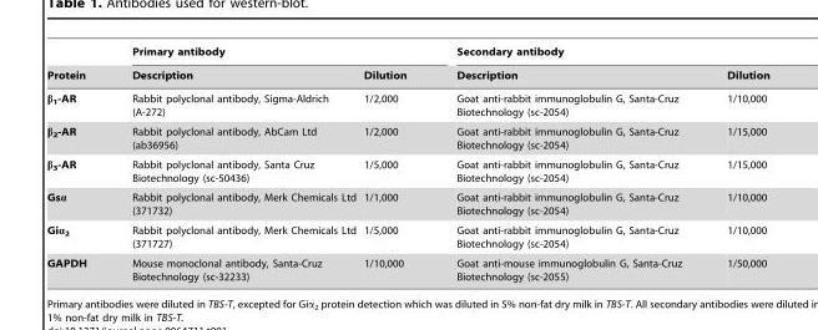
<table><thead><tr><td rowspan="2">Protein</td><td colspan="2">Primary antibody</td><td colspan="2">Secondary antibody</td></tr><tr><td>Description</td><td>Dilution</td><td>Description</td><td>Dilution</td></tr></thead><tbody><tr><td>β<sub>1</sub>-AR</td><td>Rabbit polyclonal antibody, Sigma-Aldrich (A-272)</td><td>1/2,000</td><td>Goat anti-rabbit immunoglobulin G, Santa-Cruz Biotechnology (sc-2054)</td><td>1/10,000</td></tr><tr><td>β<sub>2</sub>-AR</td><td>Rabbit polyclonal antibody, AbCam Ltd (ab36956)</td><td>1/2,000</td><td>Goat anti-rabbit immunoglobulin G, Santa-Cruz Biotechnology (sc-2054)</td><td>1/15,000</td></tr><tr><td>β<sub>3</sub>-AR</td><td>Rabbit polyclonal antibody, Santa Cruz Biotechnology (sc-50436)</td><td>1/5,000</td><td>Goat anti-rabbit immunoglobulin G, Santa-Cruz Biotechnology (sc-2054)</td><td>1/15,000</td></tr><tr><td>Gsα</td><td>Rabbit polyclonal antibody, Merk Chemicals Ltd (371732)</td><td>1/1,000</td><td>Goat anti-rabbit immunoglobulin G, Santa-Cruz Biotechnology (sc-2054)</td><td>1/10,000</td></tr><tr><td>Giα<sub>2</sub></td><td>Rabbit polyclonal antibody, Merk Chemicals Ltd (371727)</td><td>1/5,000</td><td>Goat anti-rabbit immunoglobulin G, Santa-Cruz Biotechnology (sc-2054)</td><td>1/10,000</td></tr><tr><td>GAPDH</td><td>Mouse monoclonal antibody, Santa-Cruz Biotechnology (sc-32233)</td><td>1/10,000</td><td>Goat anti-mouse immunoglobulin G, Santa-Cruz Biotechnology (sc-2055)</td><td>1/50,000</td></tr></tbody></table>